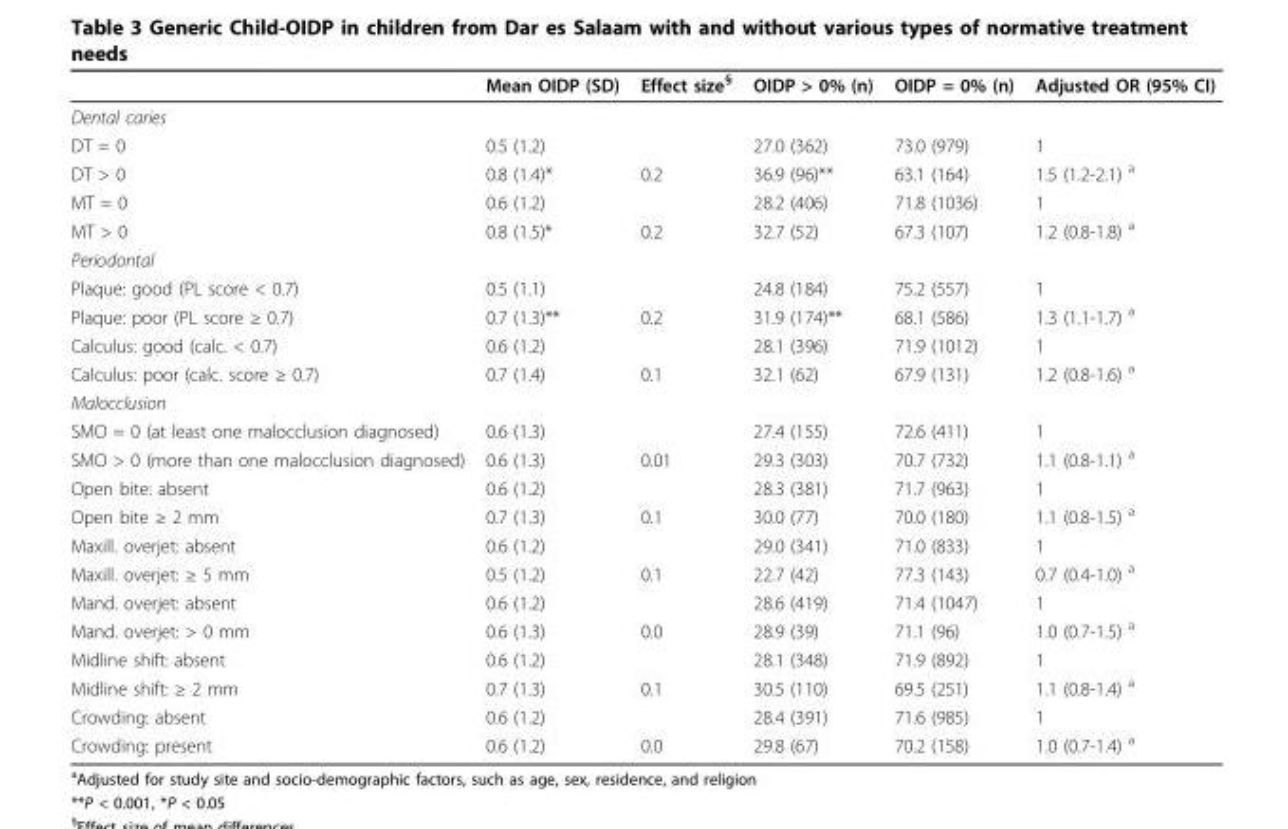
<table><thead><tr><td></td><td>Mean OIDP (SD)</td><td>Effect size<sup>§</sup></td><td>OIDP &gt; 0% (n)</td><td>OIDP = 0% (n)</td><td>Adjusted OR (95% CI)</td></tr></thead><tbody><tr><td colspan="6">Dental caries</td></tr><tr><td>DT = 0</td><td>0.5 (1.2)</td><td></td><td>27.0 (362)</td><td>73.0 (979)</td><td>1</td></tr><tr><td>DT &gt; 0</td><td>0.8 (1.4)*</td><td>0.2</td><td>36.9 (96)**</td><td>63.1 (164)</td><td>1.5 (1.2-2.1) <sup>a</sup></td></tr><tr><td>MT = 0</td><td>0.6 (1.2)</td><td></td><td>28.2 (406)</td><td>71.8 (1036)</td><td>1</td></tr><tr><td>MT &gt; 0</td><td>0.8 (1.5)*</td><td>0.2</td><td>32.7 (52)</td><td>67.3 (107)</td><td>1.2 (0.8-1.8) <sup>a</sup></td></tr><tr><td colspan="6">Periodontal</td></tr><tr><td>Plaque: good (PL score &lt; 0.7)</td><td>0.5 (1.1)</td><td></td><td>24.8 (184)</td><td>75.2 (557)</td><td>1</td></tr><tr><td>Plaque: poor (PL score ≥ 0.7)</td><td>0.7 (1.3)**</td><td>0.2</td><td>31.9 (174)**</td><td>68.1 (586)</td><td>1.3 (1.1-1.7) <sup>a</sup></td></tr><tr><td>Calculus: good (calc. &lt; 0.7)</td><td>0.6 (1.2)</td><td></td><td>28.1 (396)</td><td>71.9 (1012)</td><td>1</td></tr><tr><td>Calculus: poor (calc. score ≥ 0.7)</td><td>0.7 (1.4)</td><td>0.1</td><td>32.1 (62)</td><td>67.9 (131)</td><td>1.2 (0.8-1.6) <sup>a</sup></td></tr><tr><td colspan="6">Malocclusion</td></tr><tr><td>SMO = 0 (at least one malocclusion diagnosed)</td><td>0.6 (1.3)</td><td></td><td>27.4 (155)</td><td>72.6 (411)</td><td>1</td></tr><tr><td>SMO &gt; 0 (more than one malocclusion diagnosed)</td><td>0.6 (1.3)</td><td>0.01</td><td>29.3 (303)</td><td>70.7 (732)</td><td>1.1 (0.8-1.1) <sup>a</sup></td></tr><tr><td>Open bite: absent</td><td>0.6 (1.2)</td><td></td><td>28.3 (381)</td><td>71.7 (963)</td><td>1</td></tr><tr><td>Open bite ≥ 2 mm</td><td>0.7 (1.3)</td><td>0.1</td><td>30.0 (77)</td><td>70.0 (180)</td><td>1.1 (0.8-1.5) <sup>a</sup></td></tr><tr><td>Maxill. overjet: absent</td><td>0.6 (1.2)</td><td></td><td>29.0 (341)</td><td>71.0 (833)</td><td>1</td></tr><tr><td>Maxill. overjet: ≥ 5 mm</td><td>0.5 (1.2)</td><td>0.1</td><td>22.7 (42)</td><td>77.3 (143)</td><td>0.7 (0.4-1.0) <sup>a</sup></td></tr><tr><td>Mand. overjet: absent</td><td>0.6 (1.2)</td><td></td><td>28.6 (419)</td><td>71.4 (1047)</td><td>1</td></tr><tr><td>Mand. overjet: &gt; 0 mm</td><td>0.6 (1.3)</td><td>0.0</td><td>28.9 (39)</td><td>71.1 (96)</td><td>1.0 (0.7-1.5) <sup>a</sup></td></tr><tr><td>Midline shift: absent</td><td>0.6 (1.2)</td><td></td><td>28.1 (348)</td><td>71.9 (892)</td><td>1</td></tr><tr><td>Midline shift: ≥ 2 mm</td><td>0.7 (1.3)</td><td>0.1</td><td>30.5 (110)</td><td>69.5 (251)</td><td>1.1 (0.8-1.4) <sup>a</sup></td></tr><tr><td>Crowding: absent</td><td>0.6 (1.2)</td><td></td><td>28.4 (391)</td><td>71.6 (985)</td><td>1</td></tr><tr><td>Crowding: present</td><td>0.6 (1.2)</td><td>0.0</td><td>29.8 (67)</td><td>70.2 (158)</td><td>1.0 (0.7-1.4) <sup>a</sup></td></tr></tbody></table>